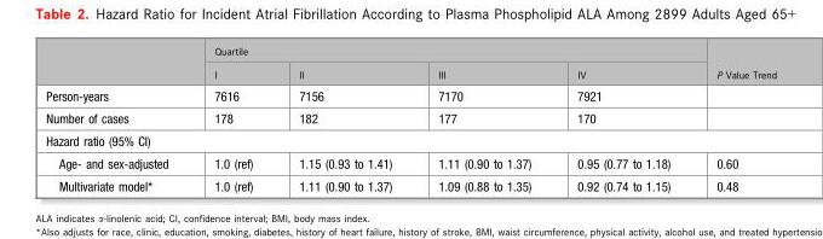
<table><thead><tr><td rowspan="2"></td><td colspan="4">Quartile</td><td rowspan="2">P Value Trend</td></tr><tr><td>I</td><td>II</td><td>III</td><td>IV</td></tr></thead><tbody><tr><td>Person-years</td><td>7616</td><td>7156</td><td>7170</td><td>7921</td><td></td></tr><tr><td>Number of cases</td><td>178</td><td>182</td><td>177</td><td>170</td><td></td></tr><tr><td colspan="6">Hazard ratio (95% CI)</td></tr><tr><td>Age- and sex-adjusted</td><td>1.0 (ref)</td><td>1.15 (0.93 to 1.41)</td><td>1.11 (0.90 to 1.37)</td><td>0.95 (0.77 to 1.18)</td><td>0.60</td></tr><tr><td>Multivariate model*</td><td>1.0 (ref)</td><td>1.11 (0.90 to 1.37)</td><td>1.09 (0.88 to 1.35)</td><td>0.92 (0.74 to 1.15)</td><td>0.48</td></tr></tbody></table>